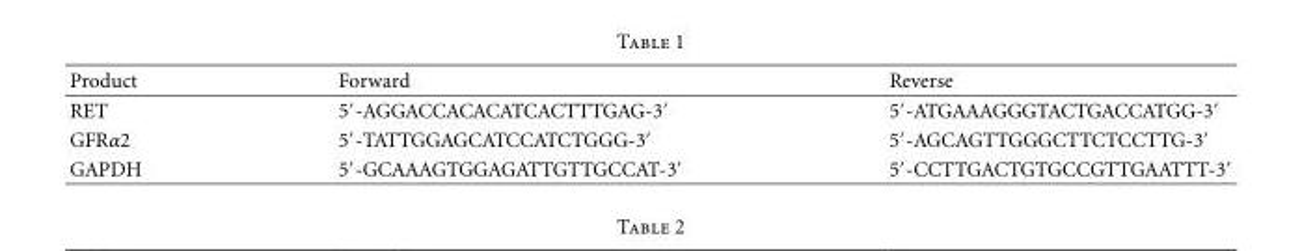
<table><thead><tr><td>Product</td><td>Forward</td><td>Reverse</td></tr></thead><tbody><tr><td>RET</td><td>5′-AGGACCACACATCACTTTGAG-3′</td><td>5′-ATGAAAGGGTACTGACCATGG-3′</td></tr><tr><td>GFRα2</td><td>5′-TATTGGAGCATCCATCTGGG-3′</td><td>5′-AGCAGTTGGGCTTCTCCTTG-3′</td></tr><tr><td>GAPDH</td><td>5′-GCAAAGTGGAGATTGTTGCCAT-3′</td><td>5′-CCTTGACTGTGCCGTTGAATTT-3′</td></tr></tbody></table>